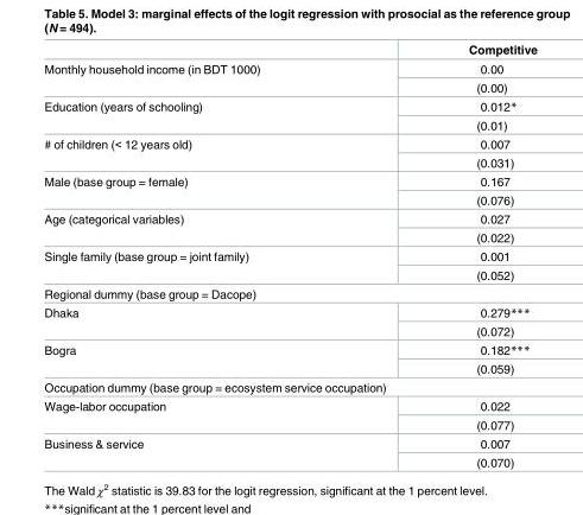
<table><thead><tr><td></td><td>Competitive</td></tr></thead><tbody><tr><td rowspan="2">Monthly household income (in BDT 1000)</td><td>0.00</td></tr><tr><td>(0.00)</td></tr><tr><td rowspan="2">Education (years of schooling)</td><td>0.012*</td></tr><tr><td>(0.01)</td></tr><tr><td rowspan="2"># of children (&lt; 12 years old)</td><td>0.007</td></tr><tr><td>(0.031)</td></tr><tr><td rowspan="2">Male (base group = female)</td><td>0.167</td></tr><tr><td>(0.076)</td></tr><tr><td rowspan="2">Age (categorical variables)</td><td>0.027</td></tr><tr><td>(0.022)</td></tr><tr><td rowspan="2">Single family (base group = joint family)</td><td>0.001</td></tr><tr><td>(0.052)</td></tr><tr><td colspan="2">Regional dummy (base group = Dacope)</td></tr><tr><td rowspan="2">Dhaka</td><td>0.279***</td></tr><tr><td>(0.072)</td></tr><tr><td rowspan="2">Bogra</td><td>0.182***</td></tr><tr><td>(0.059)</td></tr><tr><td colspan="2">Occupation dummy (base group = ecosystem service occupation)</td></tr><tr><td rowspan="2">Wage-labor occupation</td><td>0.022</td></tr><tr><td>(0.077)</td></tr><tr><td rowspan="2">Business &amp; service</td><td>0.007</td></tr><tr><td>(0.070)</td></tr></tbody></table>